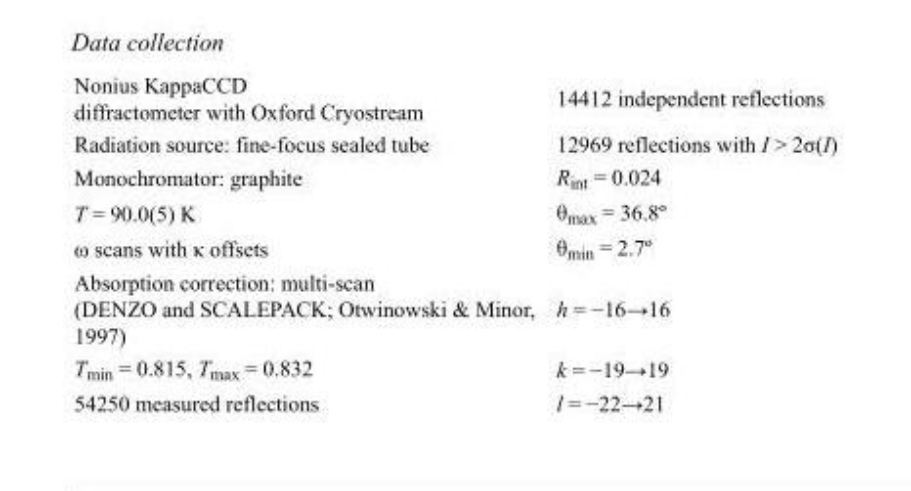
<table><tbody><tr><td>Nonius KappaCCD diffractometer with Oxford Cryostream</td><td>14412 independent reflections</td></tr><tr><td>Radiation source: fine-focus sealed tube</td><td>12969 reflections with I &gt; 2σ(I)</td></tr><tr><td>Monochromator: graphite</td><td>R<sub>int</sub> = 0.024</td></tr><tr><td>T = 90.0(5) K</td><td>θ<sub>max</sub> = 36.8º</td></tr><tr><td>ω scans with κ offsets</td><td>θ<sub>min</sub> = 2.7º</td></tr><tr><td>Absorption correction: multi-scan (DENZO and SCALEPACK; Otwinowski &amp; Minor, 1997)</td><td>h = −16→16</td></tr><tr><td>T<sub>min</sub> = 0.815, T<sub>max</sub> = 0.832</td><td>k = −19→19</td></tr><tr><td>54250 measured reflections</td><td>l = −22→21</td></tr></tbody></table>